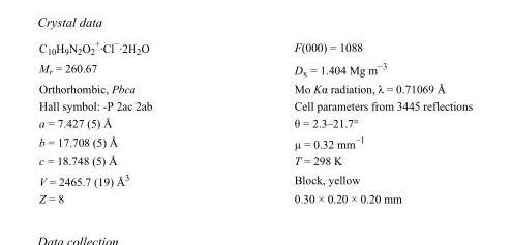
<table><tbody><tr><td>C<sub>10</sub>H<sub>9</sub>N<sub>2</sub>O<sub>2</sub> <sup>+</sup>·Cl<sup>−</sup>·2H<sub>2</sub>O</td><td>F(000) = 1088</td></tr><tr><td>M<sub>r</sub> = 260.67</td><td>D<sub>x</sub> = 1.404 Mg m<sup>−3</sup></td></tr><tr><td>Orthorhombic, Pbca</td><td>Mo Kα radiation, λ = 0.71069 Å</td></tr><tr><td>Hall symbol: -P 2ac 2ab</td><td>Cell parameters from 3445 reflections</td></tr><tr><td>a = 7.427 (5) Å</td><td>θ = 2.3–21.7°</td></tr><tr><td>b = 17.708 (5) Å</td><td>µ = 0.32 mm<sup>−1</sup></td></tr><tr><td>c = 18.748 (5) Å</td><td>T = 298 K</td></tr><tr><td>V = 2465.7 (19) Å<sup>3</sup></td><td>Block, yellow</td></tr><tr><td>Z = 8</td><td>0.30 × 0.20 × 0.20 mm</td></tr></tbody></table>